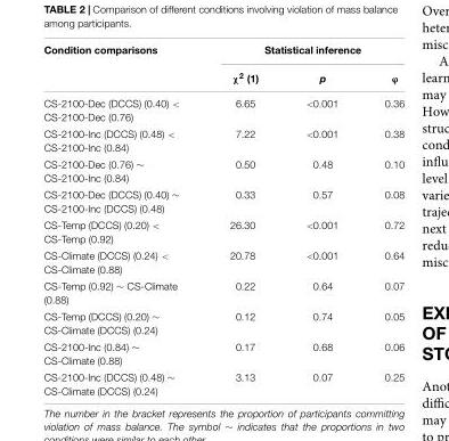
<table><thead><tr><td rowspan="2">Condition comparisons</td><td colspan="3">Statistical inference</td></tr><tr><td>χ<sup>2</sup> (1)</td><td>p</td><td>ϕ</td></tr></thead><tbody><tr><td>CS-2100-Dec (DCCS) (0.40) &lt; CS-2100-Dec (0.76)</td><td>6.65</td><td>&lt;0.001</td><td>0.36</td></tr><tr><td>CS-2100-Inc (DCCS) (0.48) &lt; CS-2100-Inc (0.84)</td><td>7.22</td><td>&lt;0.001</td><td>0.38</td></tr><tr><td>CS-2100-Dec (0.76) ∼ CS-2100-Inc (0.84)</td><td>0.50</td><td>0.48</td><td>0.10</td></tr><tr><td>CS-2100-Dec (DCCS) (0.40) ∼ CS-2100-Inc (DCCS) (0.48)</td><td>0.33</td><td>0.57</td><td>0.08</td></tr><tr><td>CS-Temp (DCCS) (0.20) &lt; CS-Temp (0.92)</td><td>26.30</td><td>&lt;0.001</td><td>0.72</td></tr><tr><td>CS-Climate (DCCS) (0.24) &lt; CS-Climate (0.88)</td><td>20.78</td><td>&lt;0.001</td><td>0.64</td></tr><tr><td>CS-Temp (0.92) ∼ CS-Climate (0.88)</td><td>0.22</td><td>0.64</td><td>0.07</td></tr><tr><td>CS-Temp (DCCS) (0.20) ∼ CS-Climate (DCCS) (0.24)</td><td>0.12</td><td>0.74</td><td>0.05</td></tr><tr><td>CS-2100-Inc (0.84) ∼ CS-Climate (0.88)</td><td>0.17</td><td>0.68</td><td>0.06</td></tr><tr><td>CS-2100-Inc (DCCS) (0.48) ∼ CS-Climate (DCCS) (0.24)</td><td>3.13</td><td>0.07</td><td>0.25</td></tr></tbody></table>